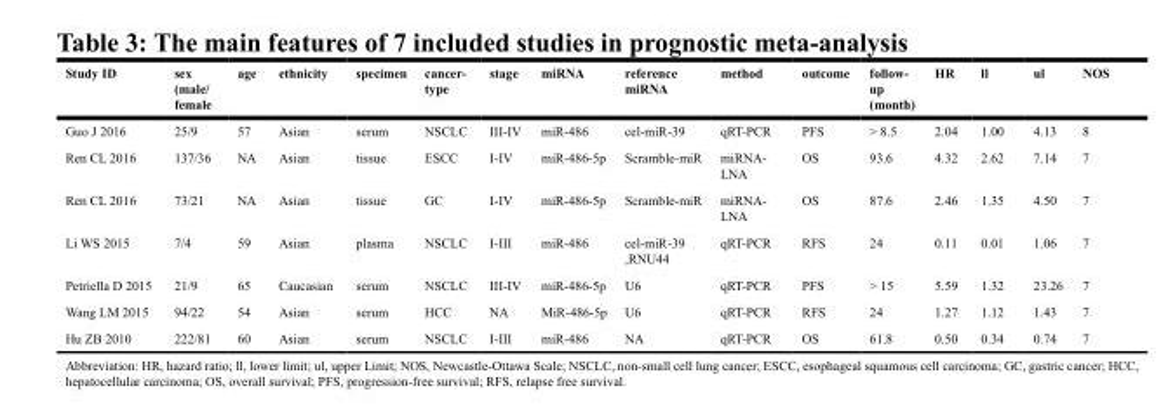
<table><thead><tr><td>Study ID</td><td>sex (male/ female</td><td>age</td><td>ethnicity</td><td>specimen</td><td>cancer- type</td><td>stage</td><td>miRNA</td><td>reference miRNA</td><td>method</td><td>outcome</td><td>follow- up (month)</td><td>HR</td><td>ll</td><td>ul</td><td>NOS</td></tr></thead><tbody><tr><td>Guo J 2016</td><td>25/9</td><td>57</td><td>Asian</td><td>serum</td><td>NSCLC</td><td>III-IV</td><td>miR-486</td><td>cel-miR-39</td><td>qRT-PCR</td><td>PFS</td><td>&gt; 8.5</td><td>2.04</td><td>1.00</td><td>4.13</td><td>8</td></tr><tr><td>Ren CL 2016</td><td>137/36</td><td>NA</td><td>Asian</td><td>tissue</td><td>ESCC</td><td>I-IV</td><td>miR-486-5p</td><td>Scramble-miR</td><td>miRNA- LNA</td><td>OS</td><td>93.6</td><td>4.32</td><td>2.62</td><td>7.14</td><td>7</td></tr><tr><td>Ren CL 2016</td><td>73/21</td><td>NA</td><td>Asian</td><td>tissue</td><td>GC</td><td>I-IV</td><td>miR-486-5p</td><td>Scramble-miR</td><td>miRNA- LNA</td><td>OS</td><td>87.6</td><td>2.46</td><td>1.35</td><td>4.50</td><td>7</td></tr><tr><td>Li WS 2015</td><td>7/4</td><td>59</td><td>Asian</td><td>plasma</td><td>NSCLC</td><td>I-III</td><td>miR-486</td><td>cel-miR-39 ,RNU44</td><td>qRT-PCR</td><td>RFS</td><td>24</td><td>0.11</td><td>0.01</td><td>1.06</td><td>7</td></tr><tr><td>Petriella D 2015</td><td>21/9</td><td>65</td><td>Caucasian</td><td>serum</td><td>NSCLC</td><td>III-IV</td><td>miR-486-5p</td><td>U6</td><td>qRT-PCR</td><td>PFS</td><td>&gt; 15</td><td>5.59</td><td>1.32</td><td>23.26</td><td>7</td></tr><tr><td>Wang LM 2015</td><td>94/22</td><td>54</td><td>Asian</td><td>serum</td><td>HCC</td><td>NA</td><td>MiR-486-5p</td><td>U6</td><td>qRT-PCR</td><td>RFS</td><td>24</td><td>1.27</td><td>1.12</td><td>1.43</td><td>7</td></tr><tr><td>Hu ZB 2010</td><td>222/81</td><td>60</td><td>Asian</td><td>serum</td><td>NSCLC</td><td>I-III</td><td>miR-486</td><td>NA</td><td>qRT-PCR</td><td>OS</td><td>61.8</td><td>0.50</td><td>0.34</td><td>0.74</td><td>7</td></tr></tbody></table>